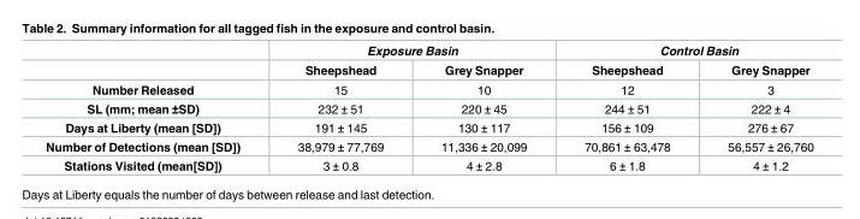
<table><thead><tr><td rowspan="2"></td><td colspan="2">Exposure Basin</td><td colspan="2">Control Basin</td></tr><tr><td>Sheepshead</td><td>Grey Snapper</td><td>Sheepshead</td><td>Grey Snapper</td></tr></thead><tbody><tr><td>Number Released</td><td>15</td><td>10</td><td>12</td><td>3</td></tr><tr><td>SL (mm; mean ±SD)</td><td>232 ± 51</td><td>220 ± 45</td><td>244 ± 51</td><td>222 ± 4</td></tr><tr><td>Days at Liberty (mean [SD])</td><td>191 ± 145</td><td>130 ± 117</td><td>156 ± 109</td><td>276 ± 67</td></tr><tr><td>Number of Detections (mean [SD])</td><td>38,979 ± 77,769</td><td>11,336 ± 20,099</td><td>70,861 ± 63,478</td><td>56,557 ± 26,760</td></tr><tr><td>Stations Visited (mean[SD])</td><td>3 ± 0.8</td><td>4 ± 2.8</td><td>6 ± 1.8</td><td>4 ± 1.2</td></tr></tbody></table>